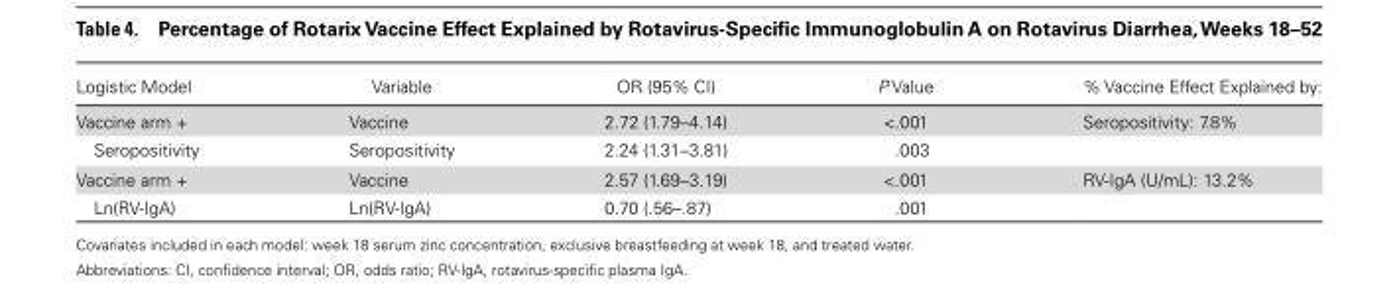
<table><thead><tr><td>Logistic Model</td><td>Variable</td><td>OR (95% CI)</td><td>P Value</td><td>% Vaccine Effect Explained by:</td></tr></thead><tbody><tr><td>Vaccine arm +</td><td>Vaccine</td><td>2.72 (1.79–4.14)</td><td>&lt;.001</td><td>Seropositivity: 7.8%</td></tr><tr><td>Seropositivity</td><td>Seropositivity</td><td>2.24 (1.31–3.81)</td><td>.003</td><td></td></tr><tr><td>Vaccine arm +</td><td>Vaccine</td><td>2.57 (1.69–3.19)</td><td>&lt;.001</td><td>RV-IgA (U/mL): 13.2%</td></tr><tr><td>Ln(RV-IgA)</td><td>Ln(RV-IgA)</td><td>0.70 (.56–.87)</td><td>.001</td><td></td></tr></tbody></table>